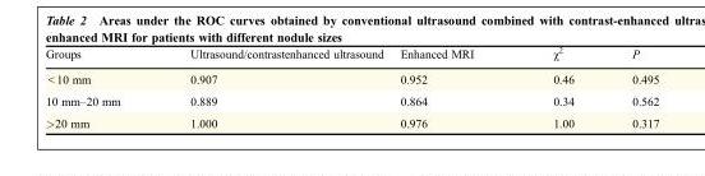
<table><thead><tr><td>Groups</td><td>Ultrasound/contrastenhanced ultrasound</td><td>Enhanced MRI</td><td>χ<sup>2</sup></td><td>P</td></tr></thead><tbody><tr><td>&lt; 10 mm</td><td>0.907</td><td>0.952</td><td>0.46</td><td>0.495</td></tr><tr><td>10 mm–20 mm</td><td>0.889</td><td>0.864</td><td>0.34</td><td>0.562</td></tr><tr><td>&gt;20 mm</td><td>1.000</td><td>0.976</td><td>1.00</td><td>0.317</td></tr></tbody></table>